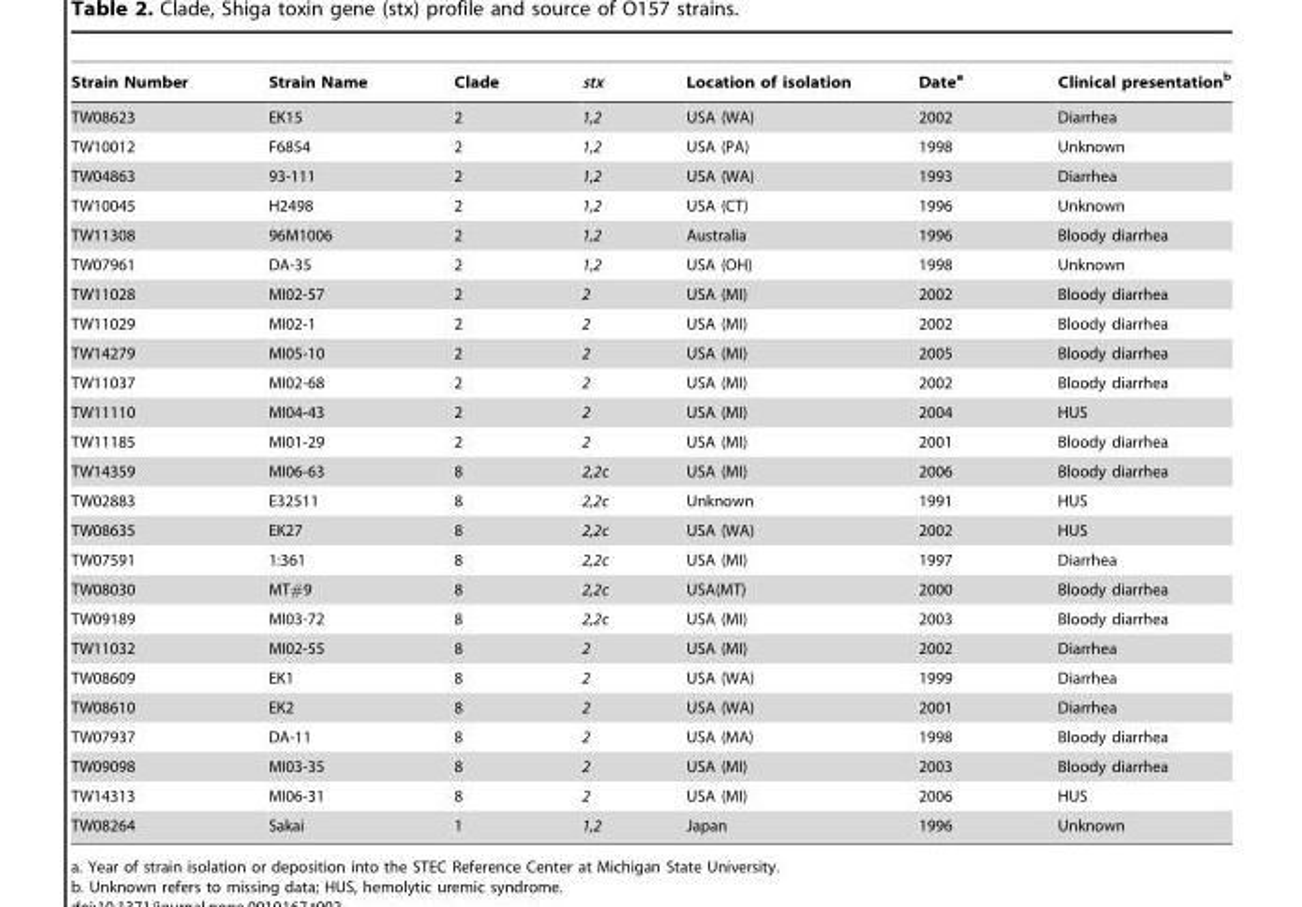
<table><thead><tr><td>Strain Number</td><td>Strain Name</td><td>Clade</td><td>stx</td><td>Location of isolation</td><td>Date<sup>a</sup></td><td>Clinical presentation<sup>b</sup></td></tr></thead><tbody><tr><td>TW08623</td><td>EK15</td><td>2</td><td>1,2</td><td>USA (WA)</td><td>2002</td><td>Diarrhea</td></tr><tr><td>TW10012</td><td>F6854</td><td>2</td><td>1,2</td><td>USA (PA)</td><td>1998</td><td>Unknown</td></tr><tr><td>TW04863</td><td>93-111</td><td>2</td><td>1,2</td><td>USA (WA)</td><td>1993</td><td>Diarrhea</td></tr><tr><td>TW10045</td><td>H2498</td><td>2</td><td>1,2</td><td>USA (CT)</td><td>1996</td><td>Unknown</td></tr><tr><td>TW11308</td><td>96M1006</td><td>2</td><td>1,2</td><td>Australia</td><td>1996</td><td>Bloody diarrhea</td></tr><tr><td>TW07961</td><td>DA-35</td><td>2</td><td>1,2</td><td>USA (OH)</td><td>1998</td><td>Unknown</td></tr><tr><td>TW11028</td><td>MI02-57</td><td>2</td><td>2</td><td>USA (MI)</td><td>2002</td><td>Bloody diarrhea</td></tr><tr><td>TW11029</td><td>MI02-1</td><td>2</td><td>2</td><td>USA (MI)</td><td>2002</td><td>Bloody diarrhea</td></tr><tr><td>TW14279</td><td>MI05-10</td><td>2</td><td>2</td><td>USA (MI)</td><td>2005</td><td>Bloody diarrhea</td></tr><tr><td>TW11037</td><td>MI02-68</td><td>2</td><td>2</td><td>USA (MI)</td><td>2002</td><td>Bloody diarrhea</td></tr><tr><td>TW11110</td><td>MI04-43</td><td>2</td><td>2</td><td>USA (MI)</td><td>2004</td><td>HUS</td></tr><tr><td>TW11185</td><td>MI01-29</td><td>2</td><td>2</td><td>USA (MI)</td><td>2001</td><td>Bloody diarrhea</td></tr><tr><td>TW14359</td><td>MI06-63</td><td>8</td><td>2,2c</td><td>USA (MI)</td><td>2006</td><td>Bloody diarrhea</td></tr><tr><td>TW02883</td><td>E32511</td><td>8</td><td>2,2c</td><td>Unknown</td><td>1991</td><td>HUS</td></tr><tr><td>TW08635</td><td>EK27</td><td>8</td><td>2,2c</td><td>USA (WA)</td><td>2002</td><td>HUS</td></tr><tr><td>TW07591</td><td>1:361</td><td>8</td><td>2,2c</td><td>USA (MI)</td><td>1997</td><td>Diarrhea</td></tr><tr><td>TW08030</td><td>MT#9</td><td>8</td><td>2,2c</td><td>USA(MT)</td><td>2000</td><td>Bloody diarrhea</td></tr><tr><td>TW09189</td><td>MI03-72</td><td>8</td><td>2,2c</td><td>USA (MI)</td><td>2003</td><td>Bloody diarrhea</td></tr><tr><td>TW11032</td><td>MI02-55</td><td>8</td><td>2</td><td>USA (MI)</td><td>2002</td><td>Diarrhea</td></tr><tr><td>TW08609</td><td>EK1</td><td>8</td><td>2</td><td>USA (WA)</td><td>1999</td><td>Diarrhea</td></tr><tr><td>TW08610</td><td>EK2</td><td>8</td><td>2</td><td>USA (WA)</td><td>2001</td><td>Diarrhea</td></tr><tr><td>TW07937</td><td>DA-11</td><td>8</td><td>2</td><td>USA (MA)</td><td>1998</td><td>Bloody diarrhea</td></tr><tr><td>TW09098</td><td>MI03-35</td><td>8</td><td>2</td><td>USA (MI)</td><td>2003</td><td>Bloody diarrhea</td></tr><tr><td>TW14313</td><td>MI06-31</td><td>8</td><td>2</td><td>USA (MI)</td><td>2006</td><td>HUS</td></tr><tr><td>TW08264</td><td>Sakai</td><td>1</td><td>1,2</td><td>Japan</td><td>1996</td><td>Unknown</td></tr></tbody></table>